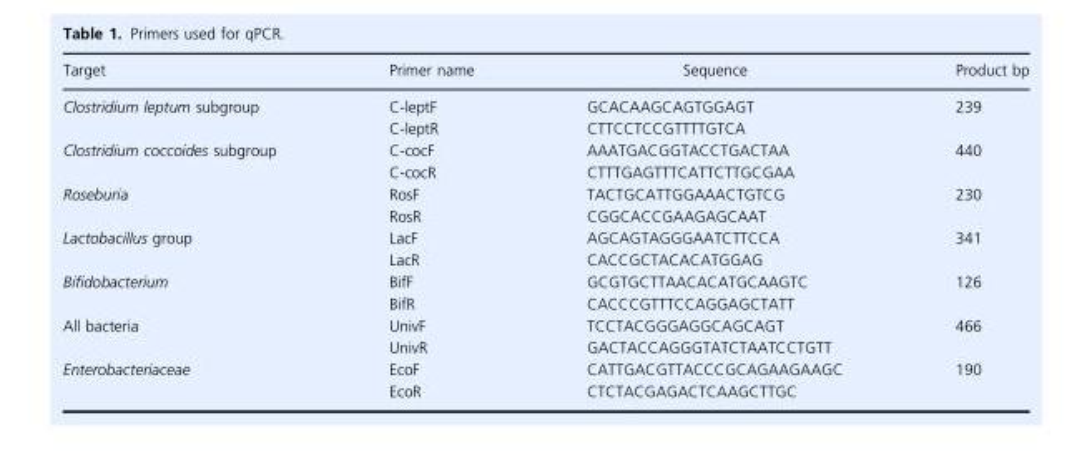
<table><thead><tr><td>Target</td><td>Primer name</td><td>Sequence</td><td>Product bp</td></tr></thead><tbody><tr><td rowspan="2">Clostridium leptum subgroup</td><td>C-leptF</td><td>GCACAAGCAGTGGAGT</td><td rowspan="2">239</td></tr><tr><td>C-leptR</td><td>CTTCCTCCGTTTTGTCA</td></tr><tr><td rowspan="2">Clostridium coccoides subgroup</td><td>C-cocF</td><td>AAATGACGGTACCTGACTAA</td><td rowspan="2">440</td></tr><tr><td>C-cocR</td><td>CTTTGAGTTTCATTCTTGCGAA</td></tr><tr><td rowspan="2">Roseburia</td><td>RosF</td><td>TACTGCATTGGAAACTGTCG</td><td rowspan="2">230</td></tr><tr><td>RosR</td><td>CGGCACCGAAGAGCAAT</td></tr><tr><td rowspan="2">Lactobacillus group</td><td>LacF</td><td>AGCAGTAGGGAATCTTCCA</td><td rowspan="2">341</td></tr><tr><td>LacR</td><td>CACCGCTACACATGGAG</td></tr><tr><td rowspan="2">Bifidobacterium</td><td>BifF</td><td>GCGTGCTTAACACATGCAAGTC</td><td rowspan="2">126</td></tr><tr><td>BifR</td><td>CACCCGTTTCCAGGAGCTATT</td></tr><tr><td rowspan="2">All bacteria</td><td>UnivF</td><td>TCCTACGGGAGGCAGCAGT</td><td rowspan="2">466</td></tr><tr><td>UnivR</td><td>GACTACCAGGGTATCTAATCCTGTT</td></tr><tr><td rowspan="2">Enterobacteriaceae</td><td>EcoF</td><td>CATTGACGTTACCCGCAGAAGAAGC</td><td rowspan="2">190</td></tr><tr><td>EcoR</td><td>CTCTACGAGACTCAAGCTTGC</td></tr></tbody></table>